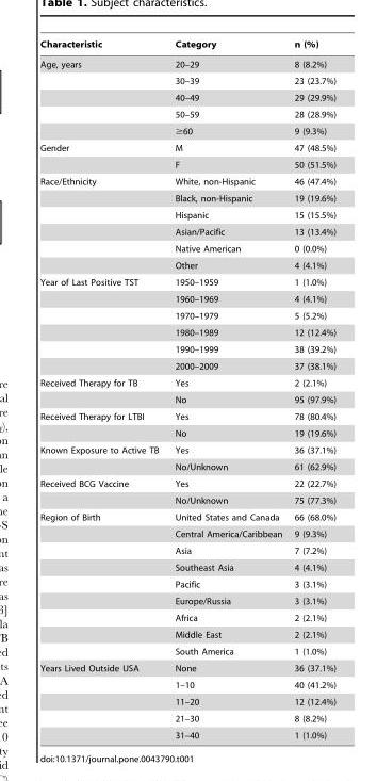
<table><thead><tr><td>Characteristic</td><td>Category</td><td>n (%)</td></tr></thead><tbody><tr><td rowspan="5">Age, years</td><td>20–29</td><td>8 (8.2%)</td></tr><tr><td>30–39</td><td>23 (23.7%)</td></tr><tr><td>40–49</td><td>29 (29.9%)</td></tr><tr><td>50–59</td><td>28 (28.9%)</td></tr><tr><td>≥60</td><td>9 (9.3%)</td></tr><tr><td rowspan="2">Gender</td><td>M</td><td>47 (48.5%)</td></tr><tr><td>F</td><td>50 (51.5%)</td></tr><tr><td rowspan="6">Race/Ethnicity</td><td>White, non-Hispanic</td><td>46 (47.4%)</td></tr><tr><td>Black, non-Hispanic</td><td>19 (19.6%)</td></tr><tr><td>Hispanic</td><td>15 (15.5%)</td></tr><tr><td>Asian/Pacific</td><td>13 (13.4%)</td></tr><tr><td>Native American</td><td>0 (0.0%)</td></tr><tr><td>Other</td><td>4 (4.1%)</td></tr><tr><td rowspan="6">Year of Last Positive TST</td><td>1950–1959</td><td>1 (1.0%)</td></tr><tr><td>1960–1969</td><td>4 (4.1%)</td></tr><tr><td>1970–1979</td><td>5 (5.2%)</td></tr><tr><td>1980–1989</td><td>12 (12.4%)</td></tr><tr><td>1990–1999</td><td>38 (39.2%)</td></tr><tr><td>2000–2009</td><td>37 (38.1%)</td></tr><tr><td rowspan="2">Received Therapy for TB</td><td>Yes</td><td>2 (2.1%)</td></tr><tr><td>No</td><td>95 (97.9%)</td></tr><tr><td rowspan="2">Received Therapy for LTBI</td><td>Yes</td><td>78 (80.4%)</td></tr><tr><td>No</td><td>19 (19.6%)</td></tr><tr><td rowspan="2">Known Exposure to Active TB</td><td>Yes</td><td>36 (37.1%)</td></tr><tr><td>No/Unknown</td><td>61 (62.9%)</td></tr><tr><td rowspan="2">Received BCG Vaccine</td><td>Yes</td><td>22 (22.7%)</td></tr><tr><td>No/Unknown</td><td>75 (77.3%)</td></tr><tr><td rowspan="9">Region of Birth</td><td>United States and Canada</td><td>66 (68.0%)</td></tr><tr><td>Central America/Caribbean</td><td>9 (9.3%)</td></tr><tr><td>Asia</td><td>7 (7.2%)</td></tr><tr><td>Southeast Asia</td><td>4 (4.1%)</td></tr><tr><td>Pacific</td><td>3 (3.1%)</td></tr><tr><td>Europe/Russia</td><td>3 (3.1%)</td></tr><tr><td>Africa</td><td>2 (2.1%)</td></tr><tr><td>Middle East</td><td>2 (2.1%)</td></tr><tr><td>South America</td><td>1 (1.0%)</td></tr><tr><td rowspan="5">Years Lived Outside USA</td><td>None</td><td>36 (37.1%)</td></tr><tr><td>1–10</td><td>40 (41.2%)</td></tr><tr><td>11–20</td><td>12 (12.4%)</td></tr><tr><td>21–30</td><td>8 (8.2%)</td></tr><tr><td>31–40</td><td>1 (1.0%)</td></tr></tbody></table>